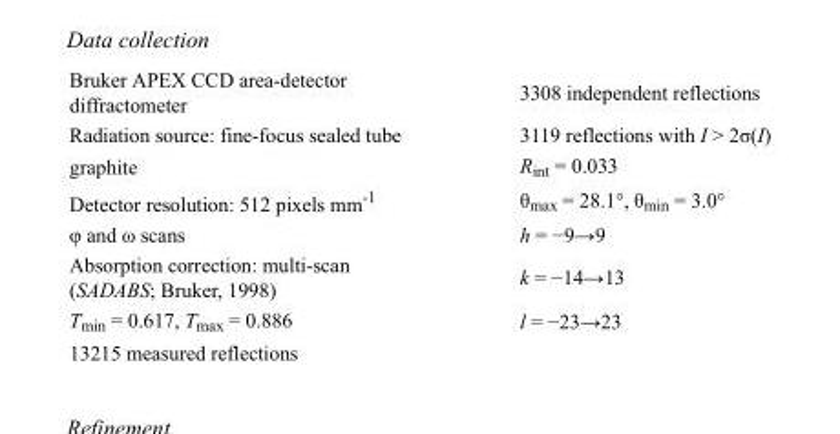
<table><tbody><tr><td>Bruker APEX CCD area-detector diffractometer</td><td>3308 independent reflections</td></tr><tr><td>Radiation source: fine-focus sealed tube</td><td>3119 reflections with I &gt; 2σ(I)</td></tr><tr><td>graphite</td><td>R<sub>int</sub> = 0.033</td></tr><tr><td>Detector resolution: 512 pixels mm<sup>-1</sup></td><td>θ<sub>max</sub> = 28.1°, θ<sub>min</sub> = 3.0°</td></tr><tr><td>φ and ω scans</td><td>h = −9→9</td></tr><tr><td>Absorption correction: multi-scan (SADABS; Bruker, 1998)</td><td>k = −14→13</td></tr><tr><td>T<sub>min</sub> = 0.617, T<sub>max</sub> = 0.886</td><td>l = −23→23</td></tr><tr><td>13215 measured reflections</td><td></td></tr></tbody></table>